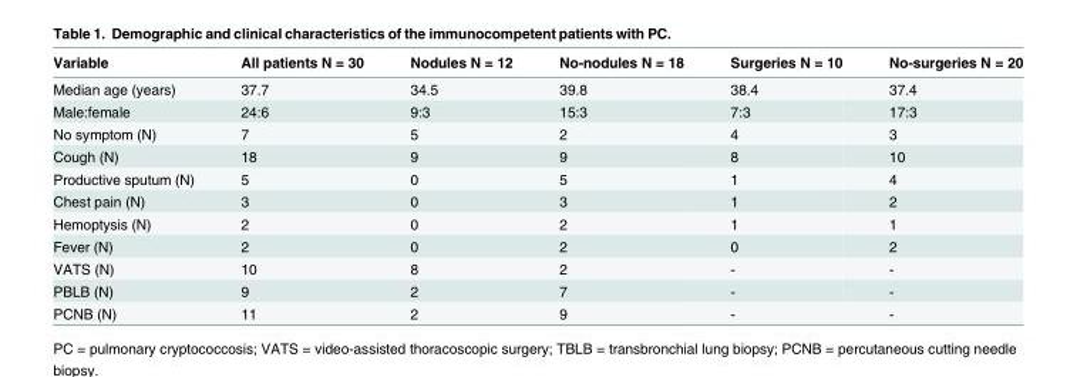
<table><thead><tr><td>Variable</td><td>All patients N = 30</td><td>Nodules N = 12</td><td>No-nodules N = 18</td><td>Surgeries N = 10</td><td>No-surgeries N = 20</td></tr></thead><tbody><tr><td>Median age (years)</td><td>37.7</td><td>34.5</td><td>39.8</td><td>38.4</td><td>37.4</td></tr><tr><td>Male:female</td><td>24:6</td><td>9:3</td><td>15:3</td><td>7:3</td><td>17:3</td></tr><tr><td>No symptom (N)</td><td>7</td><td>5</td><td>2</td><td>4</td><td>3</td></tr><tr><td>Cough (N)</td><td>18</td><td>9</td><td>9</td><td>8</td><td>10</td></tr><tr><td>Productive sputum (N)</td><td>5</td><td>0</td><td>5</td><td>1</td><td>4</td></tr><tr><td>Chest pain (N)</td><td>3</td><td>0</td><td>3</td><td>1</td><td>2</td></tr><tr><td>Hemoptysis (N)</td><td>2</td><td>0</td><td>2</td><td>1</td><td>1</td></tr><tr><td>Fever (N)</td><td>2</td><td>0</td><td>2</td><td>0</td><td>2</td></tr><tr><td>VATS (N)</td><td>10</td><td>8</td><td>2</td><td>-</td><td>-</td></tr><tr><td>PBLB (N)</td><td>9</td><td>2</td><td>7</td><td>-</td><td>-</td></tr><tr><td>PCNB (N)</td><td>11</td><td>2</td><td>9</td><td>-</td><td>-</td></tr></tbody></table>